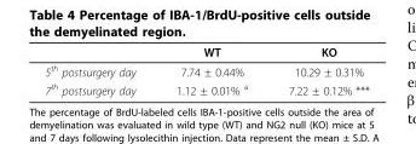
<table><thead><tr><td></td><td>WT</td><td>KO</td></tr></thead><tbody><tr><td>5<sup>th</sup> postsurgery day</td><td>7.74 ± 0.44%</td><td>10.29 ± 0.31%</td></tr><tr><td>7<sup>th</sup> postsurgery day</td><td>1.12 ± 0.01% <sup>a</sup></td><td>7.22 ± 0.12% ***</td></tr></tbody></table>